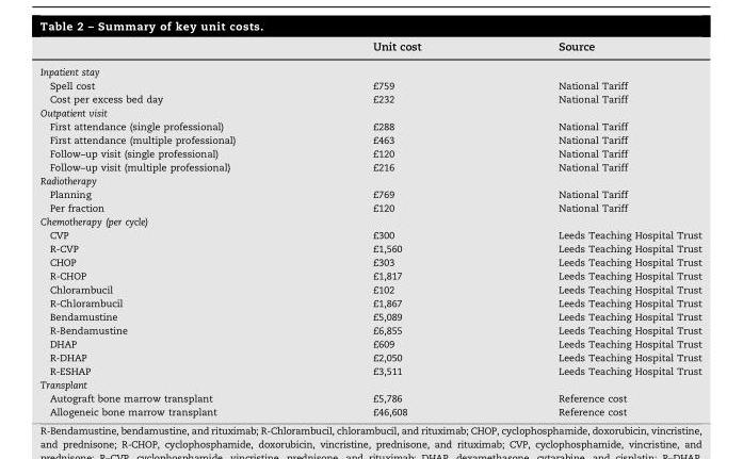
<table><thead><tr><td></td><td>Unit cost</td><td>Source</td></tr></thead><tbody><tr><td colspan="3">Inpatient stay</td></tr><tr><td>Spell cost</td><td>£759</td><td>National Tariff</td></tr><tr><td>Cost per excess bed day</td><td>£232</td><td>National Tariff</td></tr><tr><td colspan="3">Outpatient visit</td></tr><tr><td>First attendance (single professional)</td><td>£288</td><td>National Tariff</td></tr><tr><td>First attendance (multiple professional)</td><td>£463</td><td>National Tariff</td></tr><tr><td>Follow–up visit (single professional)</td><td>£120</td><td>National Tariff</td></tr><tr><td>Follow–up visit (multiple professional)</td><td>£216</td><td>National Tariff</td></tr><tr><td colspan="3">Radiotherapy</td></tr><tr><td>Planning</td><td>£769</td><td>National Tariff</td></tr><tr><td>Per fraction</td><td>£120</td><td>National Tariff</td></tr><tr><td colspan="3">Chemotherapy (per cycle)</td></tr><tr><td>CVP</td><td>£300</td><td>Leeds Teaching Hospital Trust</td></tr><tr><td>R-CVP</td><td>£1,560</td><td>Leeds Teaching Hospital Trust</td></tr><tr><td>CHOP</td><td>£303</td><td>Leeds Teaching Hospital Trust</td></tr><tr><td>R-CHOP</td><td>£1,817</td><td>Leeds Teaching Hospital Trust</td></tr><tr><td>Chlorambucil</td><td>£102</td><td>Leeds Teaching Hospital Trust</td></tr><tr><td>R-Chlorambucil</td><td>£1,867</td><td>Leeds Teaching Hospital Trust</td></tr><tr><td>Bendamustine</td><td>£5,089</td><td>Leeds Teaching Hospital Trust</td></tr><tr><td>R-Bendamustine</td><td>£6,855</td><td>Leeds Teaching Hospital Trust</td></tr><tr><td>DHAP</td><td>£609</td><td>Leeds Teaching Hospital Trust</td></tr><tr><td>R-DHAP</td><td>£2,050</td><td>Leeds Teaching Hospital Trust</td></tr><tr><td>R-ESHAP</td><td>£3,511</td><td>Leeds Teaching Hospital Trust</td></tr><tr><td colspan="3">Transplant</td></tr><tr><td>Autograft bone marrow transplant</td><td>£5,786</td><td>Reference cost</td></tr><tr><td>Allogeneic bone marrow transplant</td><td>£46,608</td><td>Reference cost</td></tr></tbody></table>